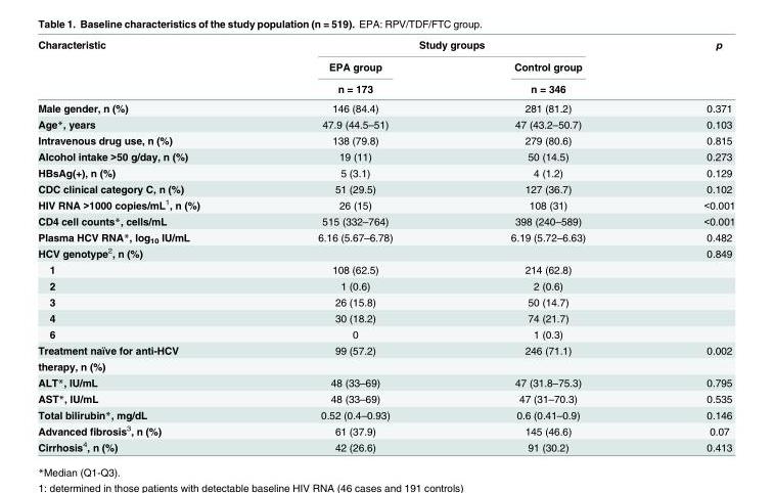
<table><thead><tr><td rowspan="3">Characteristic</td><td colspan="2">Study groups</td><td rowspan="3">p</td></tr><tr><td rowspan="2">EPA group n = 173</td><td rowspan="2">Control group n = 346</td></tr><tr></tr></thead><tbody><tr><td>Male gender, n (%)</td><td>146 (84.4)</td><td>281 (81.2)</td><td>0.371</td></tr><tr><td>Age*, years</td><td>47.9 (44.5–51)</td><td>47 (43.2–50.7)</td><td>0.103</td></tr><tr><td>Intravenous drug use, n (%)</td><td>138 (79.8)</td><td>279 (80.6)</td><td>0.815</td></tr><tr><td>Alcohol intake &gt;50 g/day, n (%)</td><td>19 (11)</td><td>50 (14.5)</td><td>0.273</td></tr><tr><td>HBsAg(+), n (%)</td><td>5 (3.1)</td><td>4 (1.2)</td><td>0.129</td></tr><tr><td>CDC clinical category C, n (%)</td><td>51 (29.5)</td><td>127 (36.7)</td><td>0.102</td></tr><tr><td>HIV RNA &gt;1000 copies/mL<sup>1</sup>, n (%)</td><td>26 (15)</td><td>108 (31)</td><td>&lt;0.001</td></tr><tr><td>CD4 cell counts*, cells/mL</td><td>515 (332–764)</td><td>398 (240–589)</td><td>&lt;0.001</td></tr><tr><td>Plasma HCV RNA*, log<sub>10</sub> IU/mL</td><td>6.16 (5.67–6.78)</td><td>6.19 (5.72–6.63)</td><td>0.482</td></tr><tr><td>HCV genotype<sup>2</sup>, n (%)</td><td></td><td></td><td>0.849</td></tr><tr><td>1</td><td>108 (62.5)</td><td>214 (62.8)</td><td></td></tr><tr><td>2</td><td>1 (0.6)</td><td>2 (0.6)</td><td></td></tr><tr><td>3</td><td>26 (15.8)</td><td>50 (14.7)</td><td></td></tr><tr><td>4</td><td>30 (18.2)</td><td>74 (21.7)</td><td></td></tr><tr><td>6</td><td>0</td><td>1 (0.3)</td><td></td></tr><tr><td>Treatment naïve for anti-HCV</td><td>99 (57.2)</td><td>246 (71.1)</td><td>0.002</td></tr><tr><td colspan="4">therapy, n (%)</td></tr><tr><td>ALT*, IU/mL</td><td>48 (33–69)</td><td>47 (31.8–75.3)</td><td>0.795</td></tr><tr><td>AST*, IU/mL</td><td>48 (33–69)</td><td>47 (31–70.3)</td><td>0.535</td></tr><tr><td>Total bilirubin*, mg/dL</td><td>0.52 (0.4–0.93)</td><td>0.6 (0.41–0.9)</td><td>0.146</td></tr><tr><td>Advanced fibrosis<sup>3</sup>, n (%)</td><td>61 (37.9)</td><td>145 (46.6)</td><td>0.07</td></tr><tr><td>Cirrhosis<sup>4</sup>, n (%)</td><td>42 (26.6)</td><td>91 (30.2)</td><td>0.413</td></tr></tbody></table>